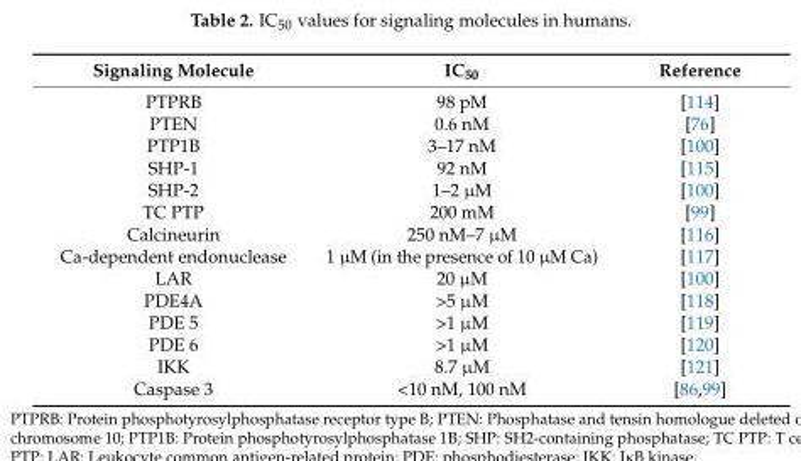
<table><thead><tr><td>Signaling Molecule</td><td>IC<sub>50</sub></td><td>Reference</td></tr></thead><tbody><tr><td>PTPRB</td><td>98 pM</td><td>[114]</td></tr><tr><td>PTEN</td><td>0.6 nM</td><td>[76]</td></tr><tr><td>PTP1B</td><td>3–17 nM</td><td>[100]</td></tr><tr><td>SHP-1</td><td>92 nM</td><td>[115]</td></tr><tr><td>SHP-2</td><td>1–2 µM</td><td>[100]</td></tr><tr><td>TC PTP</td><td>200 mM</td><td>[99]</td></tr><tr><td>Calcineurin</td><td>250 nM–7 µM</td><td>[116]</td></tr><tr><td>Ca-dependent endonuclease</td><td>1 µM (in the presence of 10 µM Ca)</td><td>[117]</td></tr><tr><td>LAR</td><td>20 µM</td><td>[100]</td></tr><tr><td>PDE4A</td><td>&gt;5 µM</td><td>[118]</td></tr><tr><td>PDE 5</td><td>&gt;1 µM</td><td>[119]</td></tr><tr><td>PDE 6</td><td>&gt;1 µM</td><td>[120]</td></tr><tr><td>IKK</td><td>8.7 µM</td><td>[121]</td></tr><tr><td>Caspase 3</td><td>&lt;10 nM, 100 nM</td><td>[86,99]</td></tr></tbody></table>